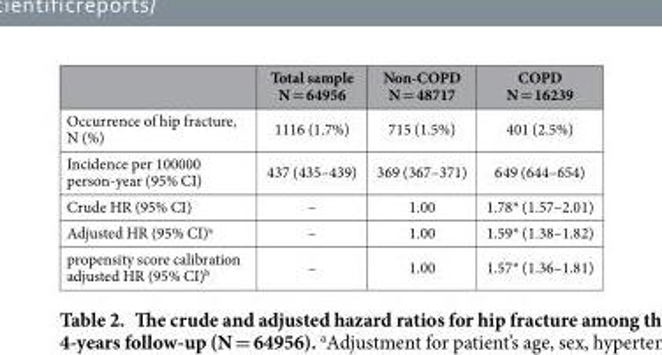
<table><thead><tr><td></td><td>Total sample N = 64956</td><td>Non-COPD N = 48717</td><td>COPD N = 16239</td></tr></thead><tbody><tr><td>Occurrence of hip fracture, N (%)</td><td>1116 (1.7%)</td><td>715 (1.5%)</td><td>401 (2.5%)</td></tr><tr><td>Incidence per 100000 person-year (95% CI)</td><td>437 (435–439)</td><td>369 (367–371)</td><td>649 (644–654)</td></tr><tr><td>Crude HR (95% CI)</td><td>–</td><td>1.00</td><td>1.78* (1.57–2.01)</td></tr><tr><td>Adjusted HR (95% CI)<sup>a</sup></td><td>–</td><td>1.00</td><td>1.59* (1.38–1.82)</td></tr><tr><td>propensity score calibration adjusted HR (95% CI)<sup>b</sup></td><td>–</td><td>1.00</td><td>1.57* (1.36–1.81)</td></tr></tbody></table>